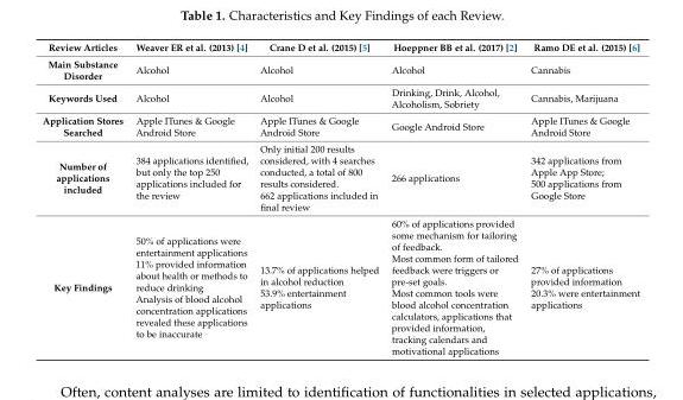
<table><thead><tr><td>Review Articles</td><td>Weaver ER et al. (2013) [4]</td><td>Crane D et al. (2015) [5]</td><td>Hoeppner BB et al. (2017) [2]</td><td>Ramo DE et al. (2015) [6]</td></tr></thead><tbody><tr><td>Main Substance Disorder</td><td>Alcohol</td><td>Alcohol</td><td>Alcohol</td><td>Cannabis</td></tr><tr><td>Keywords Used</td><td>Alcohol</td><td>Alcohol</td><td>Drinking, Drink, Alcohol, Alcoholism, Sobriety</td><td>Cannabis, Marijuana</td></tr><tr><td>Application Stores Searched</td><td>Apple ITunes &amp; Google Android Store</td><td>Apple ITunes &amp; Google Android Store</td><td>Google Android Store</td><td>Apple ITunes &amp; Google Android Store</td></tr><tr><td>Number of applications included</td><td>384 applications identified, but only the top 250 applications included for the review</td><td>Only initial 200 results considered, with 4 searches conducted, a total of 800 results considered. 662 applications included in final review</td><td>266 applications</td><td>342 applications from Apple App Store; 500 applications from Google Store</td></tr><tr><td>Key Findings</td><td>50% of applications were entertainment applications 11% provided information about health or methods to reduce drinking Analysis of blood alcohol concentration applications revealed these applications to be inaccurate</td><td>13.7% of applications helped in alcohol reduction 53.9% entertainment applications</td><td>60% of applications provided some mechanism for tailoring of feedback. Most common form of tailored feedback were triggers or pre-set goals. Most common tools were blood alcohol concentration calculators, applications that provided information, tracking calendars and motivational applications</td><td>27% of applications provided information 20.3% were entertainment applications</td></tr></tbody></table>